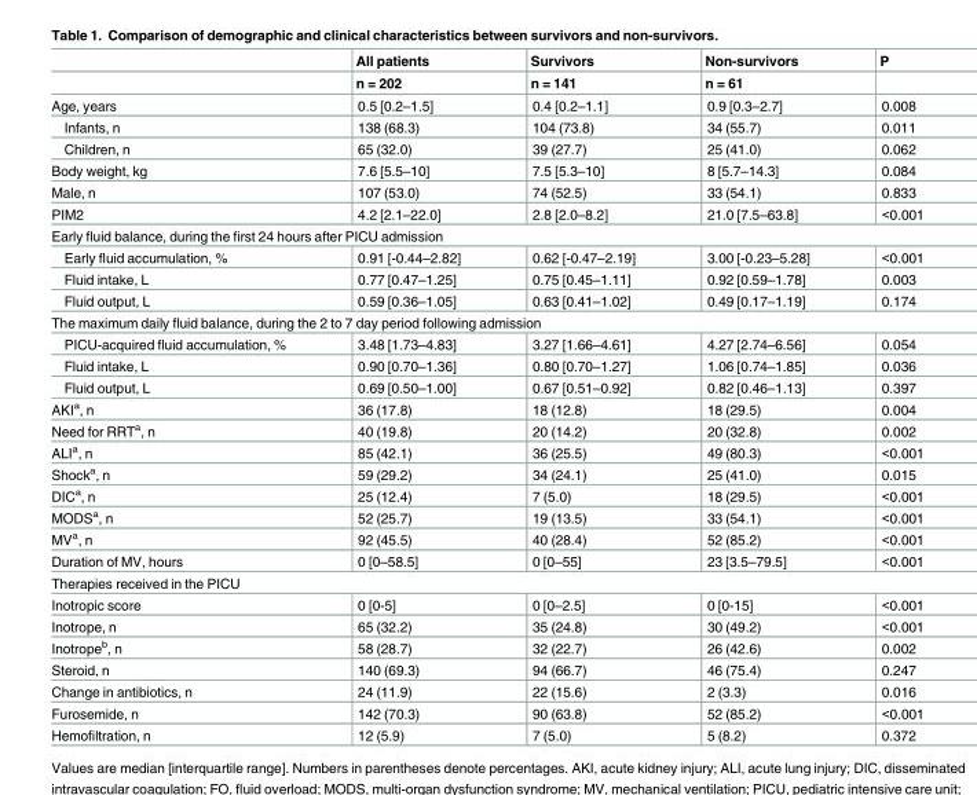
<table><thead><tr><td rowspan="2"></td><td rowspan="2">All patients n = 202</td><td rowspan="2">Survivors n = 141</td><td rowspan="2">Non-survivors n = 61</td><td rowspan="2">P</td></tr><tr></tr></thead><tbody><tr><td>Age, years</td><td>0.5 [0.2–1.5]</td><td>0.4 [0.2–1.1]</td><td>0.9 [0.3–2.7]</td><td>0.008</td></tr><tr><td>Infants, n</td><td>138 (68.3)</td><td>104 (73.8)</td><td>34 (55.7)</td><td>0.011</td></tr><tr><td>Children, n</td><td>65 (32.0)</td><td>39 (27.7)</td><td>25 (41.0)</td><td>0.062</td></tr><tr><td>Body weight, kg</td><td>7.6 [5.5–10]</td><td>7.5 [5.3–10]</td><td>8 [5.7–14.3]</td><td>0.084</td></tr><tr><td>Male, n</td><td>107 (53.0)</td><td>74 (52.5)</td><td>33 (54.1)</td><td>0.833</td></tr><tr><td>PIM2</td><td>4.2 [2.1–22.0]</td><td>2.8 [2.0–8.2]</td><td>21.0 [7.5–63.8]</td><td>&lt;0.001</td></tr><tr><td colspan="5">Early fluid balance, during the first 24 hours after PICU admission</td></tr><tr><td>Early fluid accumulation, %</td><td>0.91 [-0.44–2.82]</td><td>0.62 [-0.47–2.19]</td><td>3.00 [-0.23–5.28]</td><td>&lt;0.001</td></tr><tr><td>Fluid intake, L</td><td>0.77 [0.47–1.25]</td><td>0.75 [0.45–1.11]</td><td>0.92 [0.59–1.78]</td><td>0.003</td></tr><tr><td>Fluid output, L</td><td>0.59 [0.36–1.05]</td><td>0.63 [0.41–1.02]</td><td>0.49 [0.17–1.19]</td><td>0.174</td></tr><tr><td colspan="5">The maximum daily fluid balance, during the 2 to 7 day period following admission</td></tr><tr><td>PICU-acquired fluid accumulation, %</td><td>3.48 [1.73–4.83]</td><td>3.27 [1.66–4.61]</td><td>4.27 [2.74–6.56]</td><td>0.054</td></tr><tr><td>Fluid intake, L</td><td>0.90 [0.70–1.36]</td><td>0.80 [0.70–1.27]</td><td>1.06 [0.74–1.85]</td><td>0.036</td></tr><tr><td>Fluid output, L</td><td>0.69 [0.50–1.00]</td><td>0.67 [0.51–0.92]</td><td>0.82 [0.46–1.13]</td><td>0.397</td></tr><tr><td>AKI<sup>a</sup>, n</td><td>36 (17.8)</td><td>18 (12.8)</td><td>18 (29.5)</td><td>0.004</td></tr><tr><td>Need for RRT<sup>a</sup>, n</td><td>40 (19.8)</td><td>20 (14.2)</td><td>20 (32.8)</td><td>0.002</td></tr><tr><td>ALI<sup>a</sup>, n</td><td>85 (42.1)</td><td>36 (25.5)</td><td>49 (80.3)</td><td>&lt;0.001</td></tr><tr><td>Shock<sup>a</sup>, n</td><td>59 (29.2)</td><td>34 (24.1)</td><td>25 (41.0)</td><td>0.015</td></tr><tr><td>DIC<sup>a</sup>, n</td><td>25 (12.4)</td><td>7 (5.0)</td><td>18 (29.5)</td><td>&lt;0.001</td></tr><tr><td>MODS<sup>a</sup>, n</td><td>52 (25.7)</td><td>19 (13.5)</td><td>33 (54.1)</td><td>&lt;0.001</td></tr><tr><td>MV<sup>a</sup>, n</td><td>92 (45.5)</td><td>40 (28.4)</td><td>52 (85.2)</td><td>&lt;0.001</td></tr><tr><td>Duration of MV, hours</td><td>0 [0–58.5]</td><td>0 [0–55]</td><td>23 [3.5–79.5]</td><td>&lt;0.001</td></tr><tr><td colspan="5">Therapies received in the PICU</td></tr><tr><td>Inotropic score</td><td>0 [0-5]</td><td>0 [0–2.5]</td><td>0 [0-15]</td><td>&lt;0.001</td></tr><tr><td>Inotrope, n</td><td>65 (32.2)</td><td>35 (24.8)</td><td>30 (49.2)</td><td>&lt;0.001</td></tr><tr><td>Inotrope<sup>b</sup>, n</td><td>58 (28.7)</td><td>32 (22.7)</td><td>26 (42.6)</td><td>0.002</td></tr><tr><td>Steroid, n</td><td>140 (69.3)</td><td>94 (66.7)</td><td>46 (75.4)</td><td>0.247</td></tr><tr><td>Change in antibiotics, n</td><td>24 (11.9)</td><td>22 (15.6)</td><td>2 (3.3)</td><td>0.016</td></tr><tr><td>Furosemide, n</td><td>142 (70.3)</td><td>90 (63.8)</td><td>52 (85.2)</td><td>&lt;0.001</td></tr><tr><td>Hemofiltration, n</td><td>12 (5.9)</td><td>7 (5.0)</td><td>5 (8.2)</td><td>0.372</td></tr></tbody></table>